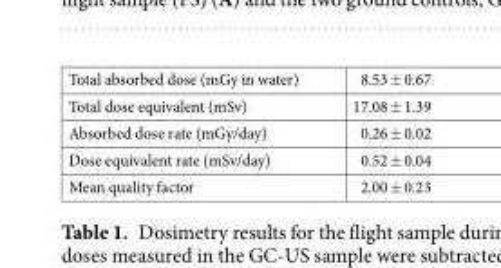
<table><tbody><tr><td>Total absorbed dose (mGy in water)</td><td>8.53 ± 0.67</td></tr><tr><td>Total dose equivalent (mSv)</td><td>17.08 ± 1.39</td></tr><tr><td>Absorbed dose rate (mGy/day)</td><td>0.26 ± 0.02</td></tr><tr><td>Dose equivalent rate (mSv/day)</td><td>0.52 ± 0.04</td></tr><tr><td>Mean quality factor</td><td>2.00 ± 0.23</td></tr></tbody></table>